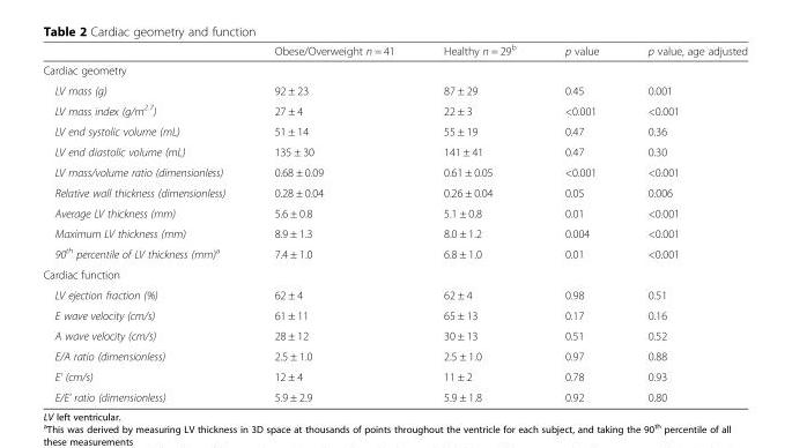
<table><thead><tr><td></td><td>Obese/Overweight n = 41</td><td>Healthy n = 29<sup>b</sup></td><td>p value</td><td>p value, age adjusted</td></tr></thead><tbody><tr><td colspan="5">Cardiac geometry</td></tr><tr><td>LV mass (g)</td><td>92 ± 23</td><td>87 ± 29</td><td>0.45</td><td>0.001</td></tr><tr><td>LV mass index (g/m<sup>2.7</sup>)</td><td>27 ± 4</td><td>22 ± 3</td><td>&lt;0.001</td><td>&lt;0.001</td></tr><tr><td>LV end systolic volume (mL)</td><td>51 ± 14</td><td>55 ± 19</td><td>0.47</td><td>0.36</td></tr><tr><td>LV end diastolic volume (mL)</td><td>135 ± 30</td><td>141 ± 41</td><td>0.47</td><td>0.30</td></tr><tr><td>LV mass/volume ratio (dimensionless)</td><td>0.68 ± 0.09</td><td>0.61 ± 0.05</td><td>&lt;0.001</td><td>&lt;0.001</td></tr><tr><td>Relative wall thickness (dimensionless)</td><td>0.28 ± 0.04</td><td>0.26 ± 0.04</td><td>0.05</td><td>0.006</td></tr><tr><td>Average LV thickness (mm)</td><td>5.6 ± 0.8</td><td>5.1 ± 0.8</td><td>0.01</td><td>&lt;0.001</td></tr><tr><td>Maximum LV thickness (mm)</td><td>8.9 ± 1.3</td><td>8.0 ± 1.2</td><td>0.004</td><td>&lt;0.001</td></tr><tr><td>90<sup>th</sup> percentile of LV thickness (mm)<sup>a</sup></td><td>7.4 ± 1.0</td><td>6.8 ± 1.0</td><td>0.01</td><td>&lt;0.001</td></tr><tr><td colspan="5">Cardiac function</td></tr><tr><td>LV ejection fraction (%)</td><td>62 ± 4</td><td>62 ± 4</td><td>0.98</td><td>0.51</td></tr><tr><td>E wave velocity (cm/s)</td><td>61 ± 11</td><td>65 ± 13</td><td>0.17</td><td>0.16</td></tr><tr><td>A wave velocity (cm/s)</td><td>28 ± 12</td><td>30 ± 13</td><td>0.51</td><td>0.52</td></tr><tr><td>E/A ratio (dimensionless)</td><td>2.5 ± 1.0</td><td>2.5 ± 1.0</td><td>0.97</td><td>0.88</td></tr><tr><td>E’ (cm/s)</td><td>12 ± 4</td><td>11 ± 2</td><td>0.78</td><td>0.93</td></tr><tr><td>E/E’ ratio (dimensionless)</td><td>5.9 ± 2.9</td><td>5.9 ± 1.8</td><td>0.92</td><td>0.80</td></tr></tbody></table>